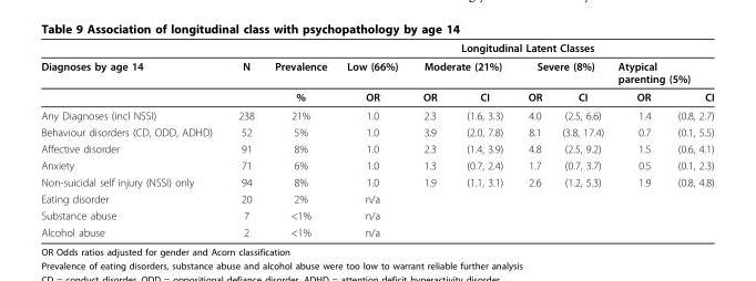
<table><thead><tr><td rowspan="3">Diagnoses by age 14</td><td rowspan="3">N</td><td rowspan="3">Prevalence %</td><td colspan="7">Longitudinal Latent Classes</td></tr><tr><td rowspan="2">Low (66%) OR</td><td colspan="2">Moderate (21%)</td><td colspan="2">Severe (8%)</td><td colspan="2">Atypical parenting (5%)</td></tr><tr><td>OR</td><td>CI</td><td>OR</td><td>CI</td><td>OR</td><td>CI</td></tr></thead><tbody><tr><td>Any Diagnoses (incl NSSI)</td><td>238</td><td>21%</td><td>1.0</td><td>2.3</td><td>(1.6, 3.3)</td><td>4.0</td><td>(2.5, 6.6)</td><td>1.4</td><td>(0.8, 2.7)</td></tr><tr><td>Behaviour disorders (CD, ODD, ADHD)</td><td>52</td><td>5%</td><td>1.0</td><td>3.9</td><td>(2.0, 7.8)</td><td>8.1</td><td>(3.8, 17.4)</td><td>0.7</td><td>(0.1, 5.5)</td></tr><tr><td>Affective disorder</td><td>91</td><td>8%</td><td>1.0</td><td>2.3</td><td>(1.4, 3.9)</td><td>4.8</td><td>(2.5, 9.2)</td><td>1.5</td><td>(0.6, 4.1)</td></tr><tr><td>Anxiety</td><td>71</td><td>6%</td><td>1.0</td><td>1.3</td><td>(0.7, 2.4)</td><td>1.7</td><td>(0.7, 3.7)</td><td>0.5</td><td>(0.1, 2.3)</td></tr><tr><td>Non-suicidal self injury (NSSI) only</td><td>94</td><td>8%</td><td>1.0</td><td>1.9</td><td>(1.1, 3.1)</td><td>2.6</td><td>(1.2, 5.3)</td><td>1.9</td><td>(0.8, 4.8)</td></tr><tr><td>Eating disorder</td><td>20</td><td>2%</td><td>n/a</td><td></td><td></td><td></td><td></td><td></td><td></td></tr><tr><td>Substance abuse</td><td>7</td><td>&lt;1%</td><td>n/a</td><td></td><td></td><td></td><td></td><td></td><td></td></tr><tr><td>Alcohol abuse</td><td>2</td><td>&lt;1%</td><td>n/a</td><td></td><td></td><td></td><td></td><td></td><td></td></tr></tbody></table>